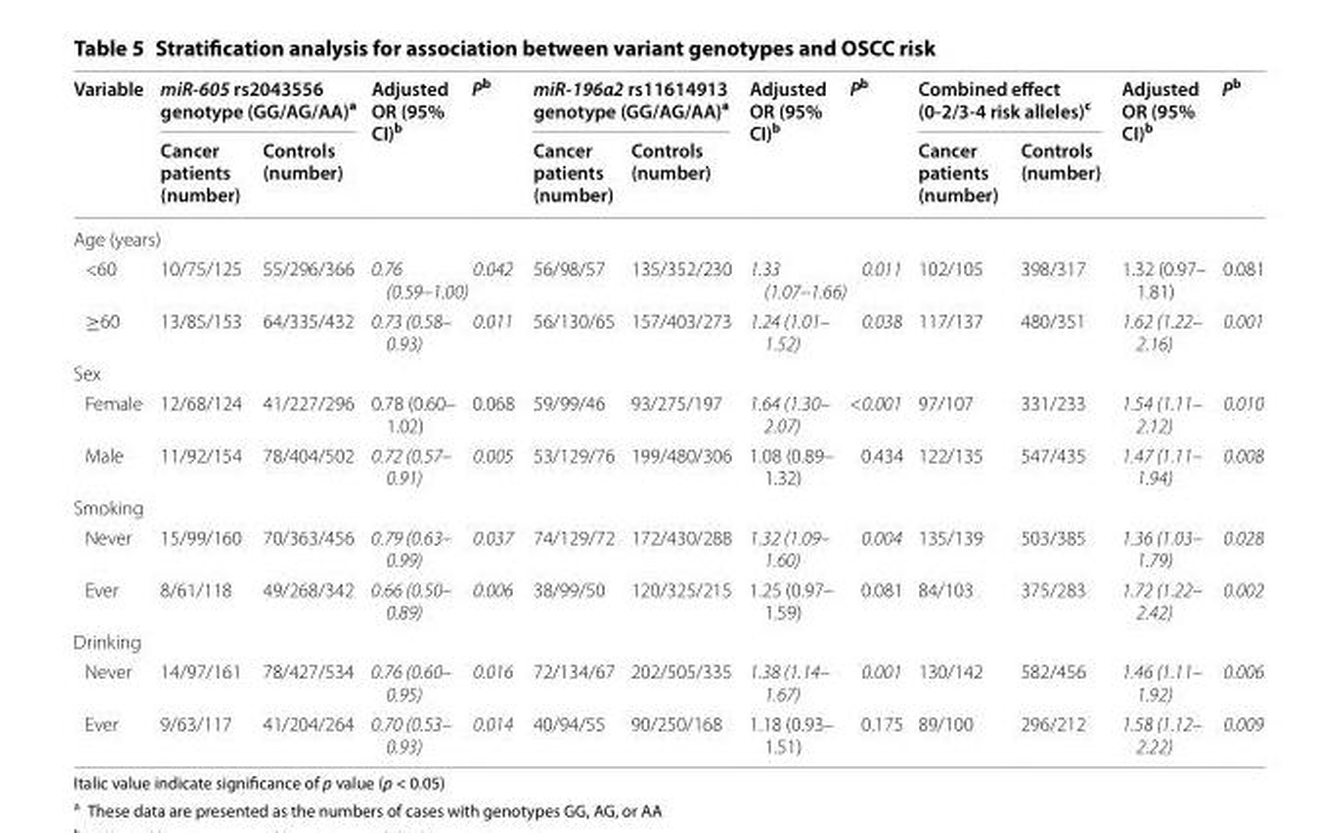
<table><thead><tr><td rowspan="2">Variable</td><td colspan="2">miR-605 rs2043556 genotype (GG/AG/AA)<sup>a</sup></td><td rowspan="2">Adjusted OR (95% CI)<sup>b</sup></td><td rowspan="2">P<sup>b</sup></td><td colspan="2">miR-196a2 rs11614913 genotype (GG/AG/AA)<sup>a</sup></td><td rowspan="2">Adjusted OR (95% CI)<sup>b</sup></td><td rowspan="2">P<sup>b</sup></td><td colspan="2">Combined effect (0-2/3-4 risk alleles)<sup>c</sup></td><td rowspan="2">Adjusted OR (95% CI)<sup>b</sup></td><td rowspan="2">P<sup>b</sup></td></tr><tr><td>Cancer patients (number)</td><td>Controls (number)</td><td>Cancer patients (number)</td><td>Controls (number)</td><td>Cancer patients (number)</td><td>Controls (number)</td></tr></thead><tbody><tr><td colspan="13">Age (years)</td></tr><tr><td>&lt;60</td><td>10/75/125</td><td>55/296/366</td><td>0.76 (0.59–1.00)</td><td>0.042</td><td>56/98/57</td><td>135/352/230</td><td>1.33 (1.07–1.66)</td><td>0.011</td><td>102/105</td><td>398/317</td><td>1.32 (0.97– 1.81)</td><td>0.081</td></tr><tr><td>≥60</td><td>13/85/153</td><td>64/335/432</td><td>0.73 (0.58– 0.93)</td><td>0.011</td><td>56/130/65</td><td>157/403/273</td><td>1.24 (1.01– 1.52)</td><td>0.038</td><td>117/137</td><td>480/351</td><td>1.62 (1.22– 2.16)</td><td>0.001</td></tr><tr><td colspan="13">Sex</td></tr><tr><td>Female</td><td>12/68/124</td><td>41/227/296</td><td>0.78 (0.60– 1.02)</td><td>0.068</td><td>59/99/46</td><td>93/275/197</td><td>1.64 (1.30– 2.07)</td><td>&lt;0.001</td><td>97/107</td><td>331/233</td><td>1.54 (1.11– 2.12)</td><td>0.010</td></tr><tr><td>Male</td><td>11/92/154</td><td>78/404/502</td><td>0.72 (0.57– 0.91)</td><td>0.005</td><td>53/129/76</td><td>199/480/306</td><td>1.08 (0.89– 1.32)</td><td>0.434</td><td>122/135</td><td>547/435</td><td>1.47 (1.11– 1.94)</td><td>0.008</td></tr><tr><td colspan="13">Smoking</td></tr><tr><td>Never</td><td>15/99/160</td><td>70/363/456</td><td>0.79 (0.63– 0.99)</td><td>0.037</td><td>74/129/72</td><td>172/430/288</td><td>1.32 (1.09– 1.60)</td><td>0.004</td><td>135/139</td><td>503/385</td><td>1.36 (1.03– 1.79)</td><td>0.028</td></tr><tr><td>Ever</td><td>8/61/118</td><td>49/268/342</td><td>0.66 (0.50– 0.89)</td><td>0.006</td><td>38/99/50</td><td>120/325/215</td><td>1.25 (0.97– 1.59)</td><td>0.081</td><td>84/103</td><td>375/283</td><td>1.72 (1.22– 2.42)</td><td>0.002</td></tr><tr><td colspan="13">Drinking</td></tr><tr><td>Never</td><td>14/97/161</td><td>78/427/534</td><td>0.76 (0.60– 0.95)</td><td>0.016</td><td>72/134/67</td><td>202/505/335</td><td>1.38 (1.14– 1.67)</td><td>0.001</td><td>130/142</td><td>582/456</td><td>1.46 (1.11– 1.92)</td><td>0.006</td></tr><tr><td>Ever</td><td>9/63/117</td><td>41/204/264</td><td>0.70 (0.53– 0.93)</td><td>0.014</td><td>40/94/55</td><td>90/250/168</td><td>1.18 (0.93– 1.51)</td><td>0.175</td><td>89/100</td><td>296/212</td><td>1.58 (1.12– 2.22)</td><td>0.009</td></tr></tbody></table>